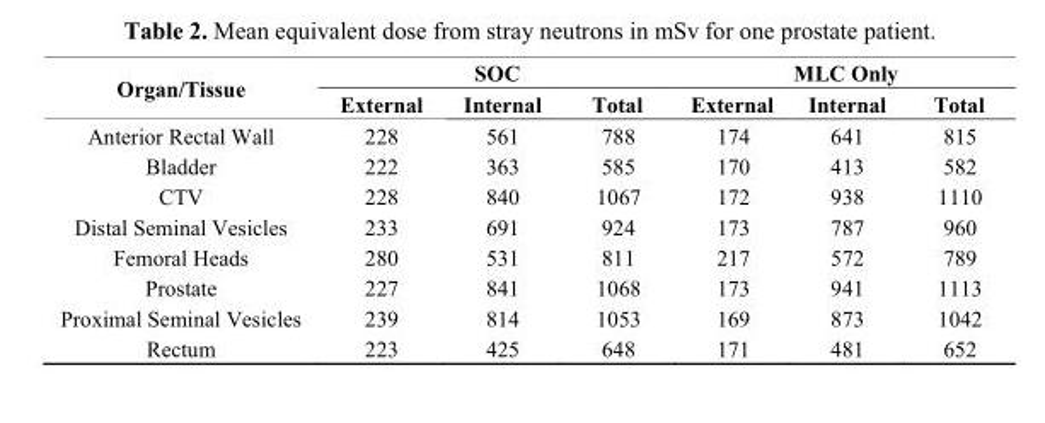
<table><thead><tr><td rowspan="2">Organ/Tissue</td><td colspan="3">SOC</td><td colspan="3">MLC Only</td></tr><tr><td>External</td><td>Internal</td><td>Total</td><td>External</td><td>Internal</td><td>Total</td></tr></thead><tbody><tr><td>Anterior Rectal Wall</td><td>228</td><td>561</td><td>788</td><td>174</td><td>641</td><td>815</td></tr><tr><td>Bladder</td><td>222</td><td>363</td><td>585</td><td>170</td><td>413</td><td>582</td></tr><tr><td>CTV</td><td>228</td><td>840</td><td>1067</td><td>172</td><td>938</td><td>1110</td></tr><tr><td>Distal Seminal Vesicles</td><td>233</td><td>691</td><td>924</td><td>173</td><td>787</td><td>960</td></tr><tr><td>Femoral Heads</td><td>280</td><td>531</td><td>811</td><td>217</td><td>572</td><td>789</td></tr><tr><td>Prostate</td><td>227</td><td>841</td><td>1068</td><td>173</td><td>941</td><td>1113</td></tr><tr><td>Proximal Seminal Vesicles</td><td>239</td><td>814</td><td>1053</td><td>169</td><td>873</td><td>1042</td></tr><tr><td>Rectum</td><td>223</td><td>425</td><td>648</td><td>171</td><td>481</td><td>652</td></tr></tbody></table>